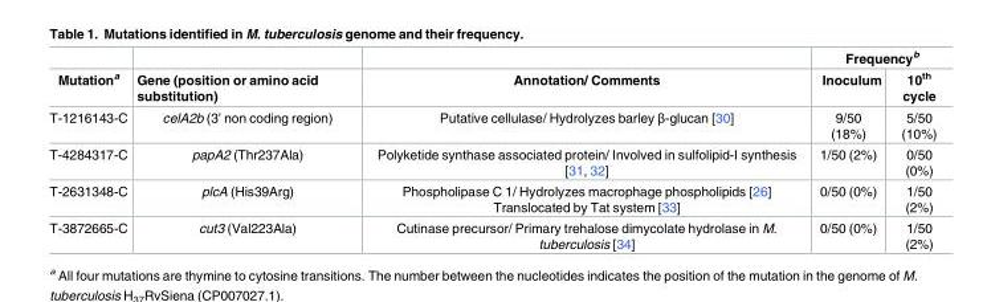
<table><thead><tr><td rowspan="2">Mutation<sup>a</sup></td><td rowspan="2">Gene (position or amino acid substitution)</td><td rowspan="2">Annotation/ Comments</td><td colspan="2">Frequency<sup>b</sup></td></tr><tr><td>Inoculum</td><td>10<sup>th</sup> cycle</td></tr></thead><tbody><tr><td>T-1216143-C</td><td>celA2b (3’ non coding region)</td><td>Putative cellulase/ Hydrolyzes barley β-glucan [30]</td><td>9/50 (18%)</td><td>5/50 (10%)</td></tr><tr><td>T-4284317-C</td><td>papA2 (Thr237Ala)</td><td>Polyketide synthase associated protein/ Involved in sulfolipid-I synthesis [31, 32]</td><td>1/50 (2%)</td><td>0/50 (0%)</td></tr><tr><td>T-2631348-C</td><td>plcA (His39Arg)</td><td>Phospholipase C 1/ Hydrolyzes macrophage phospholipids [26] Translocated by Tat system [33]</td><td>0/50 (0%)</td><td>1/50 (2%)</td></tr><tr><td>T-3872665-C</td><td>cut3 (Val223Ala)</td><td>Cutinase precursor/ Primary trehalose dimycolate hydrolase in M. tuberculosis [34]</td><td>0/50 (0%)</td><td>1/50 (2%)</td></tr></tbody></table>